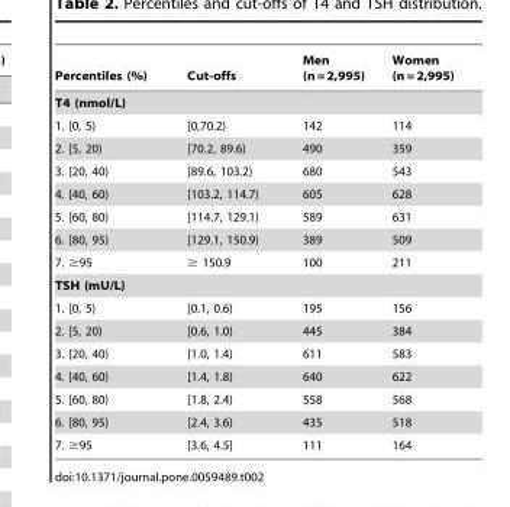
<table><thead><tr><td>Percentiles (%)</td><td>Cut-offs</td><td>Men (n = 2,995)</td><td>Women (n = 2,995)</td></tr></thead><tbody><tr><td colspan="4">T4 (nmol/L)</td></tr><tr><td>1. [0, 5)</td><td>[0,70.2)</td><td>142</td><td>114</td></tr><tr><td>2. [5, 20)</td><td>[70.2, 89.6)</td><td>490</td><td>359</td></tr><tr><td>3. [20, 40)</td><td>[89.6, 103.2)</td><td>680</td><td>543</td></tr><tr><td>4. [40, 60)</td><td>[103.2, 114.7)</td><td>605</td><td>628</td></tr><tr><td>5. [60, 80)</td><td>[114.7, 129.1)</td><td>589</td><td>631</td></tr><tr><td>6. [80, 95)</td><td>[129.1, 150.9)</td><td>389</td><td>509</td></tr><tr><td>7. ≥95</td><td>≥ 150.9</td><td>100</td><td>211</td></tr><tr><td colspan="4">TSH (mU/L)</td></tr><tr><td>1. [0, 5)</td><td>[0.1, 0.6)</td><td>195</td><td>156</td></tr><tr><td>2. [5, 20)</td><td>[0.6, 1.0)</td><td>445</td><td>384</td></tr><tr><td>3. [20, 40)</td><td>[1.0, 1.4)</td><td>611</td><td>583</td></tr><tr><td>4. [40, 60)</td><td>[1.4, 1.8)</td><td>640</td><td>622</td></tr><tr><td>5. [60, 80)</td><td>[1.8, 2.4)</td><td>558</td><td>568</td></tr><tr><td>6. [80, 95)</td><td>[2.4, 3.6)</td><td>435</td><td>518</td></tr><tr><td>7. ≥95</td><td>[3.6, 4.5]</td><td>111</td><td>164</td></tr></tbody></table>